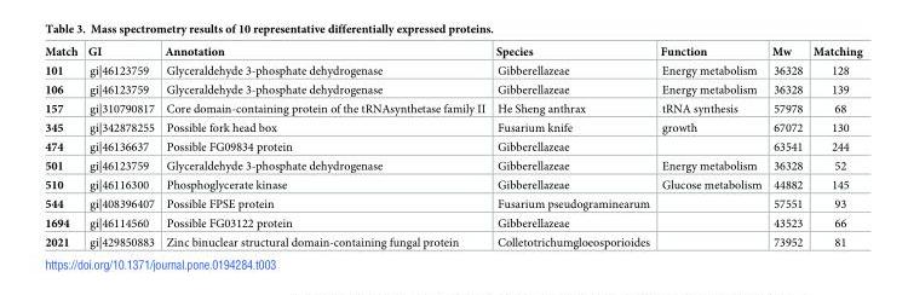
<table><thead><tr><td>Match</td><td>GI</td><td>Annotation</td><td>Species</td><td>Function</td><td>Mw</td><td>Matching</td></tr></thead><tbody><tr><td>101</td><td>gi|46123759</td><td>Glyceraldehyde 3-phosphate dehydrogenase</td><td>Gibberellazeae</td><td>Energy metabolism</td><td>36328</td><td>128</td></tr><tr><td>106</td><td>gi|46123759</td><td>Glyceraldehyde 3-phosphate dehydrogenase</td><td>Gibberellazeae</td><td>Energy metabolism</td><td>36328</td><td>139</td></tr><tr><td>157</td><td>gi|310790817</td><td>Core domain-containing protein of the tRNAsynthetase family II</td><td>He Sheng anthrax</td><td>tRNA synthesis</td><td>57978</td><td>68</td></tr><tr><td>345</td><td>gi|342878255</td><td>Possible fork head box</td><td>Fusarium knife</td><td>growth</td><td>67072</td><td>130</td></tr><tr><td>474</td><td>gi|46136637</td><td>Possible FG09834 protein</td><td>Gibberellazeae</td><td></td><td>63541</td><td>244</td></tr><tr><td>501</td><td>gi|46123759</td><td>Glyceraldehyde 3-phosphate dehydrogenase</td><td>Gibberellazeae</td><td>Energy metabolism</td><td>36328</td><td>52</td></tr><tr><td>510</td><td>gi|46116300</td><td>Phosphoglycerate kinase</td><td>Gibberellazeae</td><td>Glucose metabolism</td><td>44882</td><td>145</td></tr><tr><td>544</td><td>gi|408396407</td><td>Possible FPSE protein</td><td>Fusarium pseudograminearum</td><td></td><td>57551</td><td>93</td></tr><tr><td>1694</td><td>gi|46114560</td><td>Possible FG03122 protein</td><td>Gibberellazeae</td><td></td><td>43523</td><td>66</td></tr><tr><td>2021</td><td>gi|429850883</td><td>Zinc binuclear structural domain-containing fungal protein</td><td>Colletotrichumgloeosporioides</td><td></td><td>73952</td><td>81</td></tr></tbody></table>